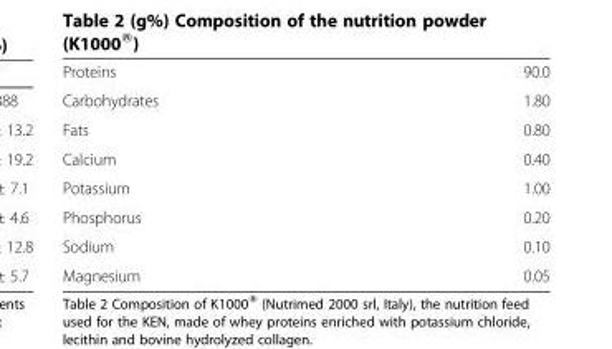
<table><tbody><tr><td>Proteins</td><td>90.0</td></tr><tr><td>Carbohydrates</td><td>1.80</td></tr><tr><td>Fats</td><td>0.80</td></tr><tr><td>Calcium</td><td>0.40</td></tr><tr><td>Potassium</td><td>1.00</td></tr><tr><td>Phosphorus</td><td>0.20</td></tr><tr><td>Sodium</td><td>0.10</td></tr><tr><td>Magnesium</td><td>0.05</td></tr></tbody></table>